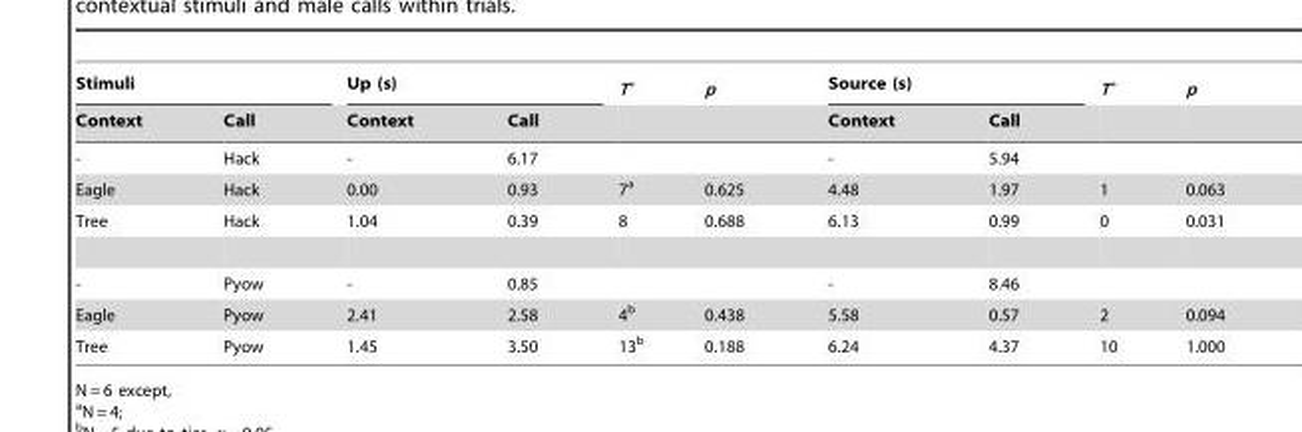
<table><thead><tr><td colspan="2">Stimuli</td><td colspan="2">Up (s)</td><td rowspan="2">T<sup>+</sup></td><td rowspan="2">p</td><td colspan="2">Source (s)</td><td rowspan="2">T<sup>+</sup></td><td rowspan="2">p</td></tr><tr><td>Context</td><td>Call</td><td>Context</td><td>Call</td><td>Context</td><td>Call</td></tr></thead><tbody><tr><td>-</td><td>Hack</td><td>-</td><td>6.17</td><td></td><td></td><td>-</td><td>5.94</td><td></td><td></td></tr><tr><td>Eagle</td><td>Hack</td><td>0.00</td><td>0.93</td><td>7<sup>a</sup></td><td>0.625</td><td>4.48</td><td>1.97</td><td>1</td><td>0.063</td></tr><tr><td>Tree</td><td>Hack</td><td>1.04</td><td>0.39</td><td>8</td><td>0.688</td><td>6.13</td><td>0.99</td><td>0</td><td>0.031</td></tr><tr><td>-</td><td>Pyow</td><td>-</td><td>0.85</td><td></td><td></td><td>-</td><td>8.46</td><td></td><td></td></tr><tr><td>Eagle</td><td>Pyow</td><td>2.41</td><td>2.58</td><td>4<sup>b</sup></td><td>0.438</td><td>5.58</td><td>0.57</td><td>2</td><td>0.094</td></tr><tr><td>Tree</td><td>Pyow</td><td>1.45</td><td>3.50</td><td>13<sup>b</sup></td><td>0.188</td><td>6.24</td><td>4.37</td><td>10</td><td>1.000</td></tr></tbody></table>